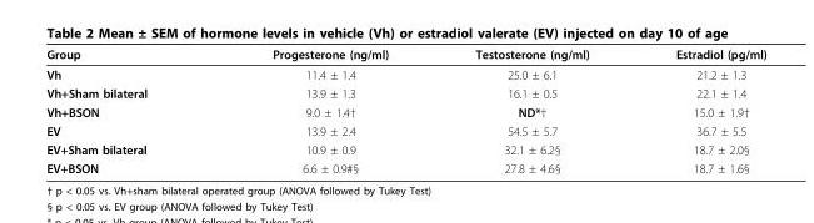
<table><thead><tr><td>Group</td><td>Progesterone (ng/ml)</td><td>Testosterone (ng/ml)</td><td>Estradiol (pg/ml)</td></tr></thead><tbody><tr><td>Vh</td><td>11.4 ± 1.4</td><td>25.0 ± 6.1</td><td>21.2 ± 1.3</td></tr><tr><td>Vh+Sham bilateral</td><td>13.9 ± 1.3</td><td>16.1 ± 0.5</td><td>22.1 ± 1.4</td></tr><tr><td>Vh+BSON</td><td>9.0 ± 1.4†</td><td>ND*†</td><td>15.0 ± 1.9†</td></tr><tr><td>EV</td><td>13.9 ± 2.4</td><td>54.5 ± 5.7</td><td>36.7 ± 5.5</td></tr><tr><td>EV+Sham bilateral</td><td>10.9 ± 0.9</td><td>32.1 ± 6.2§</td><td>18.7 ± 2.0§</td></tr><tr><td>EV+BSON</td><td>6.6 ± 0.9#§</td><td>27.8 ± 4.6§</td><td>18.7 ± 1.6§</td></tr></tbody></table>